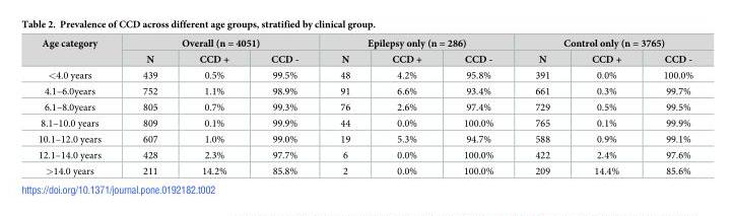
<table><thead><tr><td rowspan="2">Age category</td><td colspan="3">Overall (n = 4051)</td><td colspan="3">Epilepsy only (n = 286)</td><td colspan="3">Control only (n = 3765)</td></tr><tr><td>N</td><td>CCD +</td><td>CCD -</td><td>N</td><td>CCD +</td><td>CCD -</td><td>N</td><td>CCD +</td><td>CCD -</td></tr></thead><tbody><tr><td>&lt;4.0 years</td><td>439</td><td>0.5%</td><td>99.5%</td><td>48</td><td>4.2%</td><td>95.8%</td><td>391</td><td>0.0%</td><td>100.0%</td></tr><tr><td>4.1–6.0years</td><td>752</td><td>1.1%</td><td>98.9%</td><td>91</td><td>6.6%</td><td>93.4%</td><td>661</td><td>0.3%</td><td>99.7%</td></tr><tr><td>6.1–8.0years</td><td>805</td><td>0.7%</td><td>99.3%</td><td>76</td><td>2.6%</td><td>97.4%</td><td>729</td><td>0.5%</td><td>99.5%</td></tr><tr><td>8.1–10.0 years</td><td>809</td><td>0.1%</td><td>99.9%</td><td>44</td><td>0.0%</td><td>100.0%</td><td>765</td><td>0.1%</td><td>99.9%</td></tr><tr><td>10.1–12.0 years</td><td>607</td><td>1.0%</td><td>99.0%</td><td>19</td><td>5.3%</td><td>94.7%</td><td>588</td><td>0.9%</td><td>99.1%</td></tr><tr><td>12.1–14.0 years</td><td>428</td><td>2.3%</td><td>97.7%</td><td>6</td><td>0.0%</td><td>100.0%</td><td>422</td><td>2.4%</td><td>97.6%</td></tr><tr><td>&gt;14.0 years</td><td>211</td><td>14.2%</td><td>85.8%</td><td>2</td><td>0.0%</td><td>100.0%</td><td>209</td><td>14.4%</td><td>85.6%</td></tr></tbody></table>